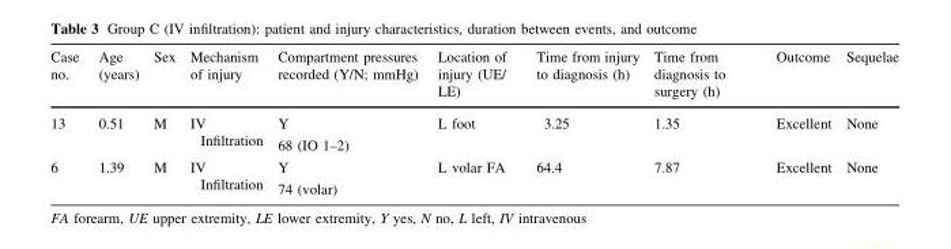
<table><thead><tr><td>Case no.</td><td>Age (years)</td><td>Sex</td><td>Mechanism of injury</td><td>Compartment pressures recorded (Y/N; mmHg)</td><td>Location of injury (UE/ LE)</td><td>Time from injury to diagnosis (h)</td><td>Time from diagnosis to surgery (h)</td><td>Outcome</td><td>Sequelae</td></tr></thead><tbody><tr><td>13</td><td>0.51</td><td>M</td><td>IV Infiltration</td><td>Y 68 (IO 1–2)</td><td>L foot</td><td>3.25</td><td>1.35</td><td>Excellent</td><td>None</td></tr><tr><td>6</td><td>1.39</td><td>M</td><td>IV Infiltration</td><td>Y 74 (volar)</td><td>L volar FA</td><td>64.4</td><td>7.87</td><td>Excellent</td><td>None</td></tr></tbody></table>